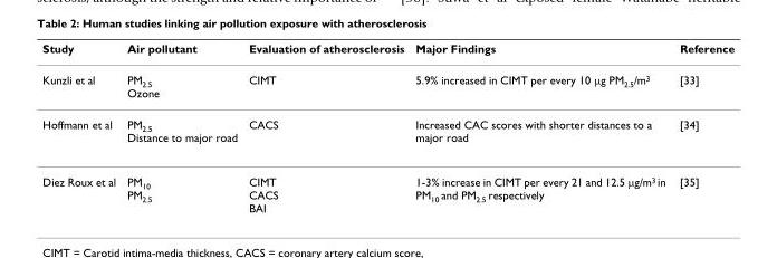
<table><thead><tr><td>Study</td><td>Air pollutant</td><td>Evaluation of atherosclerosis</td><td>Major Findings</td><td>Reference</td></tr></thead><tbody><tr><td>Kunzli et al</td><td>PM<sub>2.5</sub> Ozone</td><td>CIMT</td><td>5.9% increased in CIMT per every 10 μg PM<sub>2.5</sub>/m<sup>3</sup></td><td>[33]</td></tr><tr><td>Hoffmann et al</td><td>PM<sub>2.5</sub> Distance to major road</td><td>CACS</td><td>Increased CAC scores with shorter distances to a major road</td><td>[34]</td></tr><tr><td>Diez Roux et al</td><td>PM<sub>10</sub> PM<sub>2.5</sub></td><td>CIMT CACS BAI</td><td>1-3% increase in CIMT per every 21 and 12.5 μg/m<sup>3</sup> in PM<sub>10</sub> and PM<sub>2.5</sub> respectively</td><td>[35]</td></tr></tbody></table>